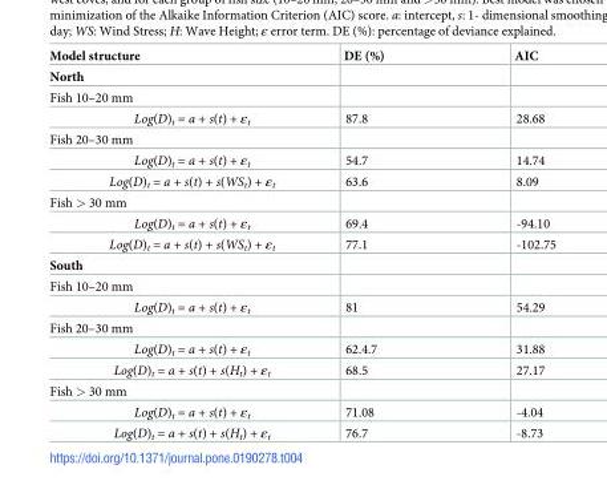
<table><thead><tr><td>Model structure</td><td>DE (%)</td><td>AIC</td></tr></thead><tbody><tr><td colspan="3">North</td></tr><tr><td colspan="3">Fish 10–20 mm</td></tr><tr><td>Log(D)<sub>t</sub> = a + s(t) + ε<sub>t</sub></td><td>87.8</td><td>28.68</td></tr><tr><td colspan="3">Fish 20–30 mm</td></tr><tr><td>Log(D)<sub>t</sub> = a + s(t) + ε<sub>t</sub></td><td>54.7</td><td>14.74</td></tr><tr><td>Log(D)<sub>t</sub> = a + s(t) + s(WS<sub>t</sub>) + ε<sub>t</sub></td><td>63.6</td><td>8.09</td></tr><tr><td colspan="3">Fish &gt; 30 mm</td></tr><tr><td>Log(D)<sub>t</sub> = a + s(t) + ε<sub>t</sub></td><td>69.4</td><td>-94.10</td></tr><tr><td>Log(D)<sub>t</sub> = a + s(t) + s(WS<sub>t</sub>) + ε<sub>t</sub></td><td>77.1</td><td>-102.75</td></tr><tr><td colspan="3">South</td></tr><tr><td colspan="3">Fish 10–20 mm</td></tr><tr><td>Log(D)<sub>t</sub> = a + s(t) + ε<sub>t</sub></td><td>81</td><td>54.29</td></tr><tr><td colspan="3">Fish 20–30 mm</td></tr><tr><td>Log(D)<sub>t</sub> = a + s(t) + ε<sub>t</sub></td><td>62.4.7</td><td>31.88</td></tr><tr><td>Log(D)<sub>t</sub> = a + s(t) + s(H<sub>t</sub>) + ε<sub>t</sub></td><td>68.5</td><td>27.17</td></tr><tr><td colspan="3">Fish &gt; 30 mm</td></tr><tr><td>Log(D)<sub>t</sub> = a + s(t) + ε<sub>t</sub></td><td>71.08</td><td>-4.04</td></tr><tr><td>Log(D)<sub>t</sub> = a + s(t) + s(H<sub>t</sub>) + ε<sub>t</sub></td><td>76.7</td><td>-8.73</td></tr></tbody></table>